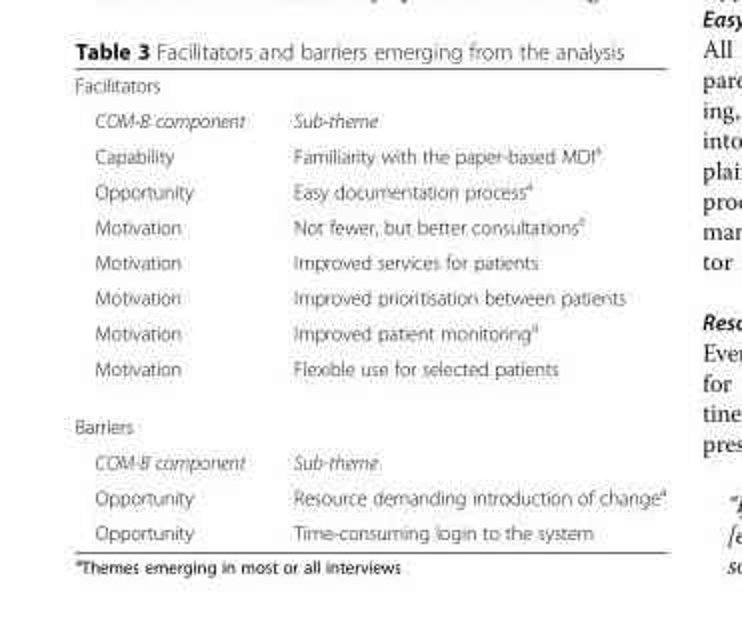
<table><tbody><tr><td colspan="2">Facilitators</td></tr><tr><td>COM-B component</td><td>Sub-theme</td></tr><tr><td>Capability</td><td>Familiarity with the paper-based MDI<sup>a</sup></td></tr><tr><td>Opportunity</td><td>Easy documentation process<sup>a</sup></td></tr><tr><td>Motivation</td><td>Not fewer, but better consultations<sup>a</sup></td></tr><tr><td>Motivation</td><td>Improved services for patients</td></tr><tr><td>Motivation</td><td>Improved prioritisation between patients</td></tr><tr><td>Motivation</td><td>Improved patient monitoring<sup>a</sup></td></tr><tr><td>Motivation</td><td>Flexible use for selected patients</td></tr><tr><td colspan="2">Barriers</td></tr><tr><td>COM-B component</td><td>Sub-theme</td></tr><tr><td>Opportunity</td><td>Resource demanding introduction of change<sup>a</sup></td></tr><tr><td>Opportunity</td><td>Time-consuming login to the system</td></tr></tbody></table>